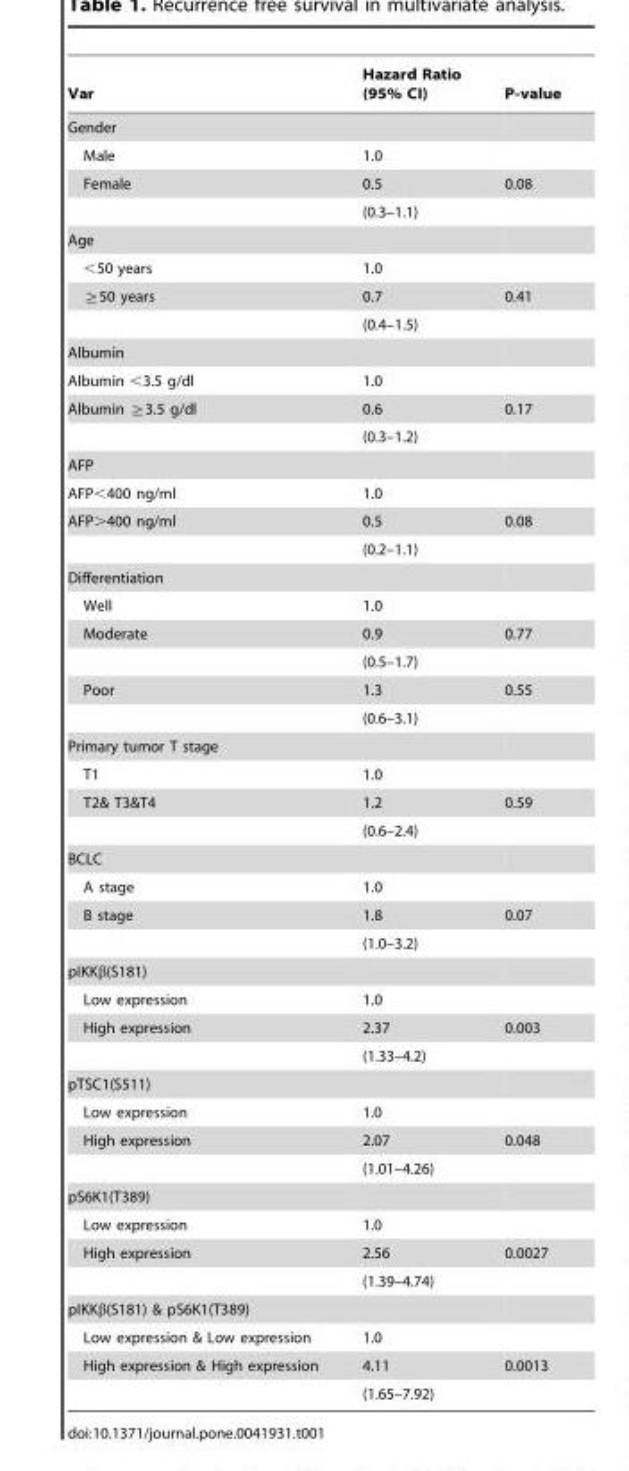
<table><thead><tr><td>Var</td><td>Hazard Ratio (95% CI)</td><td>P-value</td></tr></thead><tbody><tr><td colspan="3">Gender</td></tr><tr><td>Male</td><td>1.0</td><td></td></tr><tr><td rowspan="2">Female</td><td>0.5</td><td>0.08</td></tr><tr><td>(0.3–1.1)</td><td></td></tr><tr><td colspan="3">Age</td></tr><tr><td>&lt;50 years</td><td>1.0</td><td></td></tr><tr><td rowspan="2">≧50 years</td><td>0.7</td><td>0.41</td></tr><tr><td>(0.4–1.5)</td><td></td></tr><tr><td colspan="3">Albumin</td></tr><tr><td>Albumin &lt;3.5 g/dl</td><td>1.0</td><td></td></tr><tr><td rowspan="2">Albumin ≧3.5 g/dl</td><td>0.6</td><td>0.17</td></tr><tr><td>(0.3–1.2)</td><td></td></tr><tr><td colspan="3">AFP</td></tr><tr><td>AFP&lt;400 ng/ml</td><td>1.0</td><td></td></tr><tr><td rowspan="2">AFP&gt;400 ng/ml</td><td>0.5</td><td>0.08</td></tr><tr><td>(0.2–1.1)</td><td></td></tr><tr><td colspan="3">Differentiation</td></tr><tr><td>Well</td><td>1.0</td><td></td></tr><tr><td rowspan="2">Moderate</td><td>0.9</td><td>0.77</td></tr><tr><td>(0.5–1.7)</td><td></td></tr><tr><td rowspan="2">Poor</td><td>1.3</td><td>0.55</td></tr><tr><td>(0.6–3.1)</td><td></td></tr><tr><td colspan="3">Primary tumor T stage</td></tr><tr><td>T1</td><td>1.0</td><td></td></tr><tr><td rowspan="2">T2&amp; T3&amp;T4</td><td>1.2</td><td>0.59</td></tr><tr><td>(0.6–2.4)</td><td></td></tr><tr><td colspan="3">BCLC</td></tr><tr><td>A stage</td><td>1.0</td><td></td></tr><tr><td rowspan="2">B stage</td><td>1.8</td><td>0.07</td></tr><tr><td>(1.0–3.2)</td><td></td></tr><tr><td colspan="3">pIKKβ(S181)</td></tr><tr><td>Low expression</td><td>1.0</td><td></td></tr><tr><td rowspan="2">High expression</td><td>2.37</td><td>0.003</td></tr><tr><td>(1.33–4.2)</td><td></td></tr><tr><td colspan="3">pTSC1(S511)</td></tr><tr><td>Low expression</td><td>1.0</td><td></td></tr><tr><td rowspan="2">High expression</td><td>2.07</td><td>0.048</td></tr><tr><td>(1.01–4.26)</td><td></td></tr><tr><td colspan="3">pS6K1(T389)</td></tr><tr><td>Low expression</td><td>1.0</td><td></td></tr><tr><td rowspan="2">High expression</td><td>2.56</td><td>0.0027</td></tr><tr><td>(1.39–4.74)</td><td></td></tr><tr><td colspan="3">pIKKβ(S181) &amp; pS6K1(T389)</td></tr><tr><td>Low expression &amp; Low expression</td><td>1.0</td><td></td></tr><tr><td rowspan="2">High expression &amp; High expression</td><td>4.11</td><td>0.0013</td></tr><tr><td>(1.65–7.92)</td><td></td></tr></tbody></table>